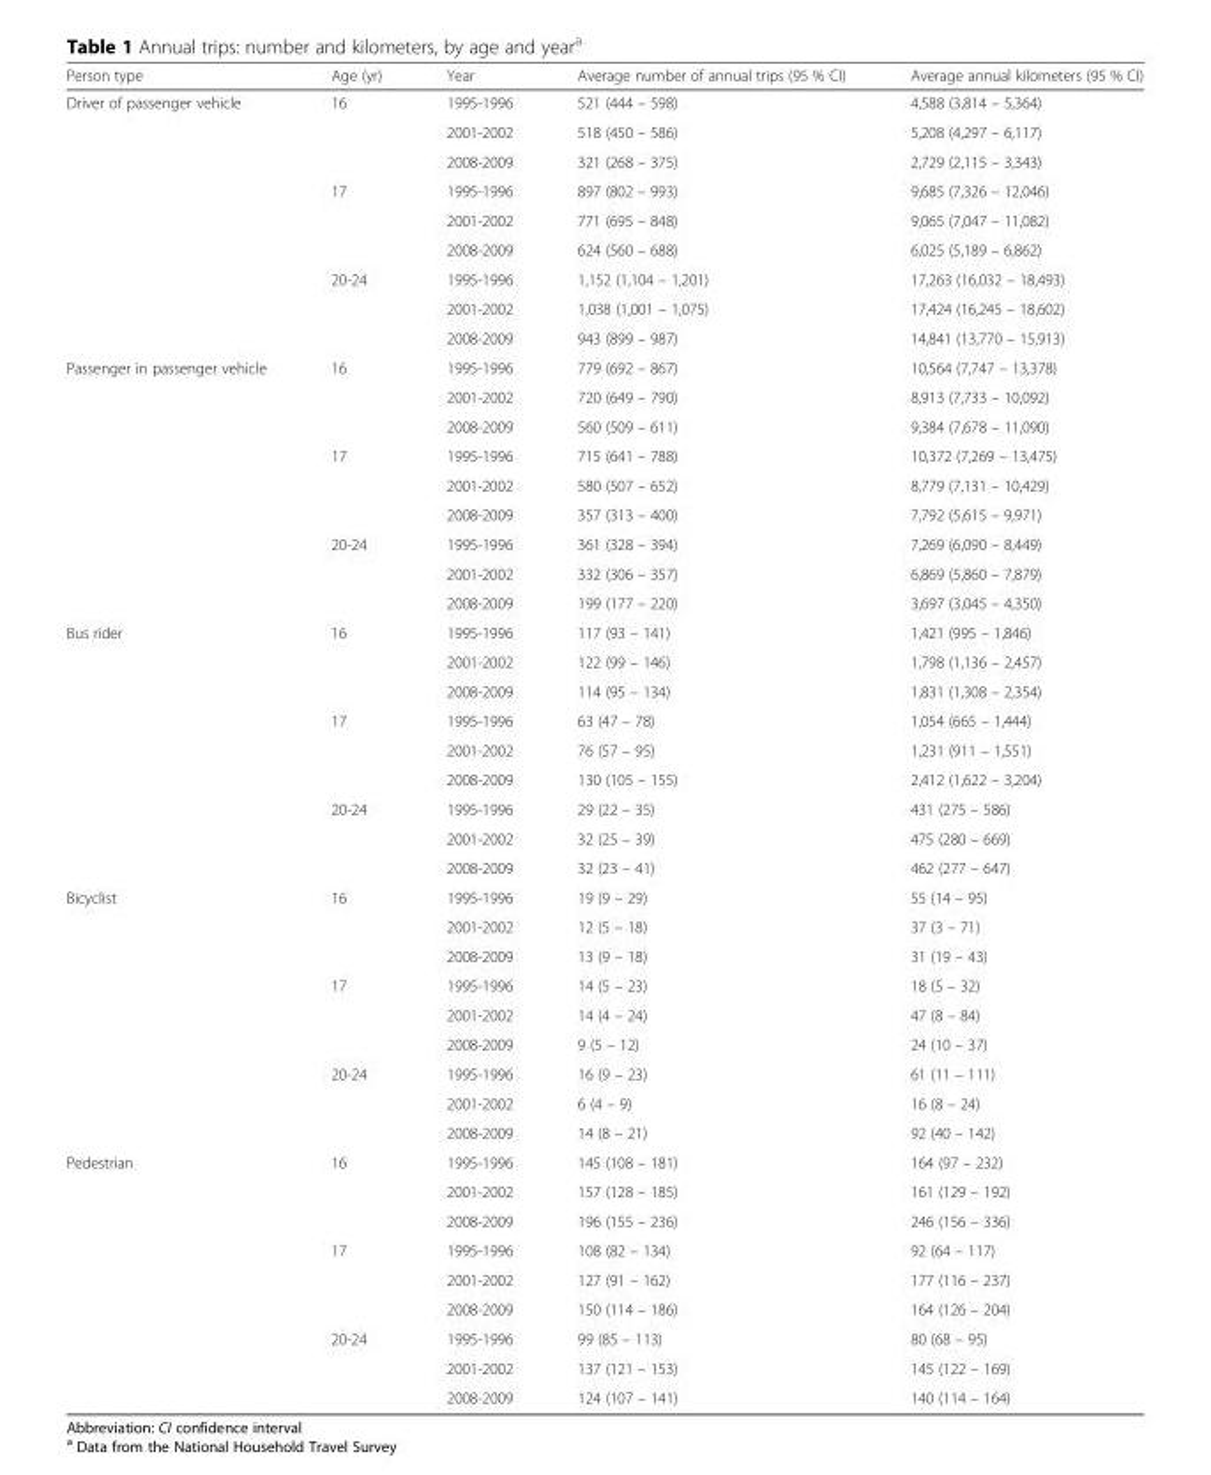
<table><thead><tr><td>Person type</td><td>Age (yr)</td><td>Year</td><td>Average number of annual trips (95 % CI)</td><td>Average annual kilometers (95 % CI)</td></tr></thead><tbody><tr><td rowspan="9">Driver of passenger vehicle</td><td>16</td><td>1995-1996</td><td>521 (444 – 598)</td><td>4,588 (3,814 – 5,364)</td></tr><tr><td></td><td>2001-2002</td><td>518 (450 – 586)</td><td>5,208 (4,297 – 6,117)</td></tr><tr><td></td><td>2008-2009</td><td>321 (268 – 375)</td><td>2,729 (2,115 – 3,343)</td></tr><tr><td>17</td><td>1995-1996</td><td>897 (802 – 993)</td><td>9,685 (7,326 – 12,046)</td></tr><tr><td></td><td>2001-2002</td><td>771 (695 – 848)</td><td>9,065 (7,047 – 11,082)</td></tr><tr><td></td><td>2008-2009</td><td>624 (560 – 688)</td><td>6,025 (5,189 – 6,862)</td></tr><tr><td>20-24</td><td>1995-1996</td><td>1,152 (1,104 – 1,201)</td><td>17,263 (16,032 – 18,493)</td></tr><tr><td></td><td>2001-2002</td><td>1,038 (1,001 – 1,075)</td><td>17,424 (16,245 – 18,602)</td></tr><tr><td></td><td>2008-2009</td><td>943 (899 – 987)</td><td>14,841 (13,770 – 15,913)</td></tr><tr><td rowspan="9">Passenger in passenger vehicle</td><td>16</td><td>1995-1996</td><td>779 (692 – 867)</td><td>10,564 (7,747 – 13,378)</td></tr><tr><td></td><td>2001-2002</td><td>720 (649 – 790)</td><td>8,913 (7,733 – 10,092)</td></tr><tr><td></td><td>2008-2009</td><td>560 (509 – 611)</td><td>9,384 (7,678 – 11,090)</td></tr><tr><td>17</td><td>1995-1996</td><td>715 (641 – 788)</td><td>10,372 (7,269 – 13,475)</td></tr><tr><td></td><td>2001-2002</td><td>580 (507 – 652)</td><td>8,779 (7,131 – 10,429)</td></tr><tr><td></td><td>2008-2009</td><td>357 (313 – 400)</td><td>7,792 (5,615 – 9,971)</td></tr><tr><td>20-24</td><td>1995-1996</td><td>361 (328 – 394)</td><td>7,269 (6,090 – 8,449)</td></tr><tr><td></td><td>2001-2002</td><td>332 (306 – 357)</td><td>6,869 (5,860 – 7,879)</td></tr><tr><td></td><td>2008-2009</td><td>199 (177 – 220)</td><td>3,697 (3,045 – 4,350)</td></tr><tr><td rowspan="9">Bus rider</td><td>16</td><td>1995-1996</td><td>117 (93 – 141)</td><td>1,421 (995 – 1,846)</td></tr><tr><td></td><td>2001-2002</td><td>122 (99 – 146)</td><td>1,798 (1,136 – 2,457)</td></tr><tr><td></td><td>2008-2009</td><td>114 (95 – 134)</td><td>1,831 (1,308 – 2,354)</td></tr><tr><td>17</td><td>1995-1996</td><td>63 (47 – 78)</td><td>1,054 (665 – 1,444)</td></tr><tr><td></td><td>2001-2002</td><td>76 (57 – 95)</td><td>1,231 (911 – 1,551)</td></tr><tr><td></td><td>2008-2009</td><td>130 (105 – 155)</td><td>2,412 (1,622 – 3,204)</td></tr><tr><td>20-24</td><td>1995-1996</td><td>29 (22 – 35)</td><td>431 (275 – 586)</td></tr><tr><td></td><td>2001-2002</td><td>32 (25 – 39)</td><td>475 (280 – 669)</td></tr><tr><td></td><td>2008-2009</td><td>32 (23 – 41)</td><td>462 (277 – 647)</td></tr><tr><td rowspan="9">Bicyclist</td><td>16</td><td>1995-1996</td><td>19 (9 – 29)</td><td>55 (14 – 95)</td></tr><tr><td></td><td>2001-2002</td><td>12 (5 – 18)</td><td>37 (3 – 71)</td></tr><tr><td></td><td>2008-2009</td><td>13 (9 – 18)</td><td>31 (19 – 43)</td></tr><tr><td>17</td><td>1995-1996</td><td>14 (5 – 23)</td><td>18 (5 – 32)</td></tr><tr><td></td><td>2001-2002</td><td>14 (4 – 24)</td><td>47 (8 – 84)</td></tr><tr><td></td><td>2008-2009</td><td>9 (5 – 12)</td><td>24 (10 – 37)</td></tr><tr><td>20-24</td><td>1995-1996</td><td>16 (9 – 23)</td><td>61 (11 – 111)</td></tr><tr><td></td><td>2001-2002</td><td>6 (4 – 9)</td><td>16 (8 – 24)</td></tr><tr><td></td><td>2008-2009</td><td>14 (8 – 21)</td><td>92 (40 – 142)</td></tr><tr><td rowspan="9">Pedestrian</td><td>16</td><td>1995-1996</td><td>145 (108 – 181)</td><td>164 (97 – 232)</td></tr><tr><td></td><td>2001-2002</td><td>157 (128 – 185)</td><td>161 (129 – 192)</td></tr><tr><td></td><td>2008-2009</td><td>196 (155 – 236)</td><td>246 (156 – 336)</td></tr><tr><td>17</td><td>1995-1996</td><td>108 (82 – 134)</td><td>92 (64 – 117)</td></tr><tr><td></td><td>2001-2002</td><td>127 (91 – 162)</td><td>177 (116 – 237)</td></tr><tr><td></td><td>2008-2009</td><td>150 (114 – 186)</td><td>164 (126 – 204)</td></tr><tr><td>20-24</td><td>1995-1996</td><td>99 (85 – 113)</td><td>80 (68 – 95)</td></tr><tr><td></td><td>2001-2002</td><td>137 (121 – 153)</td><td>145 (122 – 169)</td></tr><tr><td></td><td>2008-2009</td><td>124 (107 – 141)</td><td>140 (114 – 164)</td></tr></tbody></table>